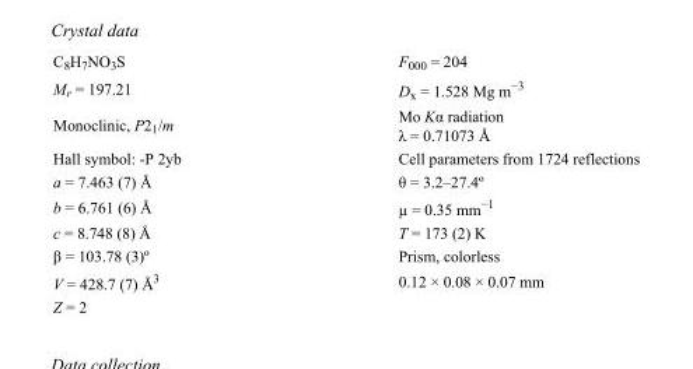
<table><tbody><tr><td>C<sub>8</sub>H<sub>7</sub>NO<sub>3</sub>S</td><td>F<sub>000</sub> = 204</td></tr><tr><td>M<sub>r</sub> = 197.21</td><td>D<sub>x</sub> = 1.528 Mg m<sup>−3</sup></td></tr><tr><td>Monoclinic, P2<sub>1</sub>/m</td><td>Mo Kα radiation λ = 0.71073 Å</td></tr><tr><td>Hall symbol: -P 2yb</td><td>Cell parameters from 1724 reflections</td></tr><tr><td>a = 7.463 (7) Å</td><td>θ = 3.2–27.4º</td></tr><tr><td>b = 6.761 (6) Å</td><td>µ = 0.35 mm<sup>−1</sup></td></tr><tr><td>c = 8.748 (8) Å</td><td>T = 173 (2) K</td></tr><tr><td>β = 103.78 (3)º</td><td>Prism, colorless</td></tr><tr><td>V = 428.7 (7) Å<sup>3</sup></td><td>0.12 × 0.08 × 0.07 mm</td></tr><tr><td>Z = 2</td><td></td></tr></tbody></table>